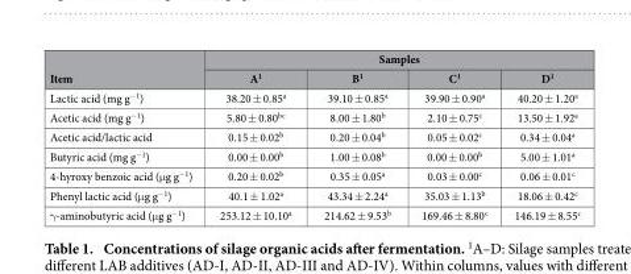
<table><thead><tr><td rowspan="2">Item</td><td colspan="4">Samples</td></tr><tr><td>A<sup>1</sup></td><td>B<sup>1</sup></td><td>C<sup>1</sup></td><td>D<sup>1</sup></td></tr></thead><tbody><tr><td>Lactic acid (mg g<sup>−1</sup>)</td><td>38.20 ± 0.85<sup>a</sup></td><td>39.10 ± 0.85<sup>a</sup></td><td>39.90 ± 0.90<sup>a</sup></td><td>40.20 ± 1.20<sup>a</sup></td></tr><tr><td>Acetic acid (mg g<sup>−1</sup>)</td><td>5.80 ± 0.80<sup>bc</sup></td><td>8.00 ± 1.80<sup>b</sup></td><td>2.10 ± 0.75<sup>c</sup></td><td>13.50 ± 1.92<sup>a</sup></td></tr><tr><td>Acetic acid/lactic acid</td><td>0.15 ± 0.02<sup>b</sup></td><td>0.20 ± 0.04<sup>b</sup></td><td>0.05 ± 0.02<sup>c</sup></td><td>0.34 ± 0.04<sup>a</sup></td></tr><tr><td>Butyric acid (mg g<sup>−1</sup>)</td><td>0.00 ± 0.00<sup>b</sup></td><td>1.00 ± 0.08<sup>b</sup></td><td>0.00 ± 0.00<sup>b</sup></td><td>5.00 ± 1.01<sup>a</sup></td></tr><tr><td>4-hyroxy benzoic acid (μ g g<sup>−1</sup>)</td><td>0.20 ± 0.02<sup>b</sup></td><td>0.35 ± 0.05<sup>a</sup></td><td>0.03 ± 0.00<sup>c</sup></td><td>0.06 ± 0.01<sup>c</sup></td></tr><tr><td>Phenyl lactic acid (μ g g<sup>−1</sup>)</td><td>40.1 ± 1.02<sup>a</sup></td><td>43.34 ± 2.24<sup>a</sup></td><td>35.03 ± 1.13<sup>b</sup></td><td>18.06 ± 0.42<sup>c</sup></td></tr><tr><td>γ -aminobutyric acid (μ g g<sup>−1</sup>)</td><td>253.12 ± 10.10<sup>a</sup></td><td>214.62 ± 9.53<sup>b</sup></td><td>169.46 ± 8.80<sup>c</sup></td><td>146.19 ± 8.55<sup>c</sup></td></tr></tbody></table>